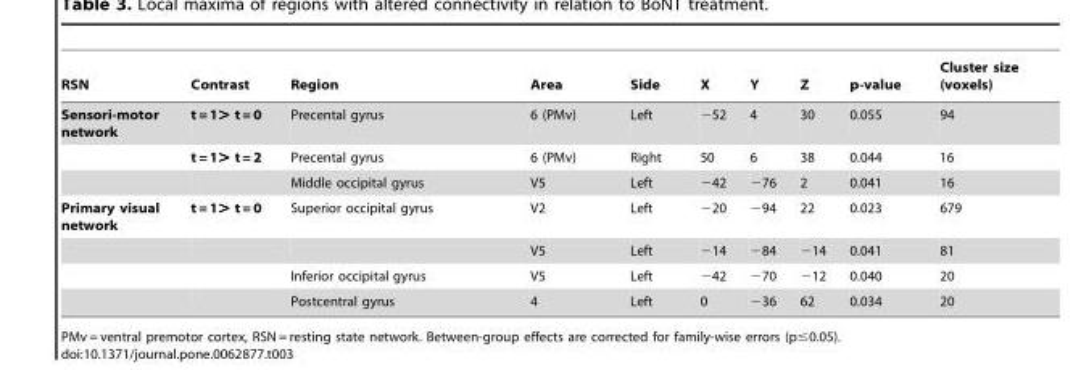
<table><thead><tr><td>RSN</td><td>Contrast</td><td>Region</td><td>Area</td><td>Side</td><td>X</td><td>Y</td><td>Z</td><td>p-value</td><td>Cluster size (voxels)</td></tr></thead><tbody><tr><td rowspan="3">Sensori-motor network</td><td>t = 1&gt; t = 0</td><td>Precental gyrus</td><td>6 (PMv)</td><td>Left</td><td>−52</td><td>4</td><td>30</td><td>0.055</td><td>94</td></tr><tr><td>t = 1&gt; t = 2</td><td>Precental gyrus</td><td>6 (PMv)</td><td>Right</td><td>50</td><td>6</td><td>38</td><td>0.044</td><td>16</td></tr><tr><td></td><td>Middle occipital gyrus</td><td>V5</td><td>Left</td><td>−42</td><td>−76</td><td>2</td><td>0.041</td><td>16</td></tr><tr><td rowspan="4">Primary visual network</td><td>t = 1&gt; t = 0</td><td>Superior occipital gyrus</td><td>V2</td><td>Left</td><td>−20</td><td>−94</td><td>22</td><td>0.023</td><td>679</td></tr><tr><td></td><td></td><td>V5</td><td>Left</td><td>−14</td><td>−84</td><td>−14</td><td>0.041</td><td>81</td></tr><tr><td></td><td>Inferior occipital gyrus</td><td>V5</td><td>Left</td><td>−42</td><td>−70</td><td>−12</td><td>0.040</td><td>20</td></tr><tr><td></td><td>Postcentral gyrus</td><td>4</td><td>Left</td><td>0</td><td>−36</td><td>62</td><td>0.034</td><td>20</td></tr></tbody></table>